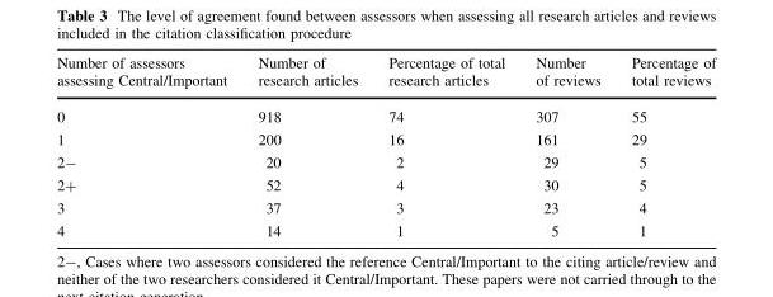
<table><thead><tr><td>Number of assessors assessing Central/Important</td><td>Number of research articles</td><td>Percentage of total research articles</td><td>Number of reviews</td><td>Percentage of total reviews</td></tr></thead><tbody><tr><td>0</td><td>918</td><td>74</td><td>307</td><td>55</td></tr><tr><td>1</td><td>200</td><td>16</td><td>161</td><td>29</td></tr><tr><td>2-</td><td>20</td><td>2</td><td>29</td><td>5</td></tr><tr><td>2+</td><td>52</td><td>4</td><td>30</td><td>5</td></tr><tr><td>3</td><td>37</td><td>3</td><td>23</td><td>4</td></tr><tr><td>4</td><td>14</td><td>1</td><td>5</td><td>1</td></tr></tbody></table>